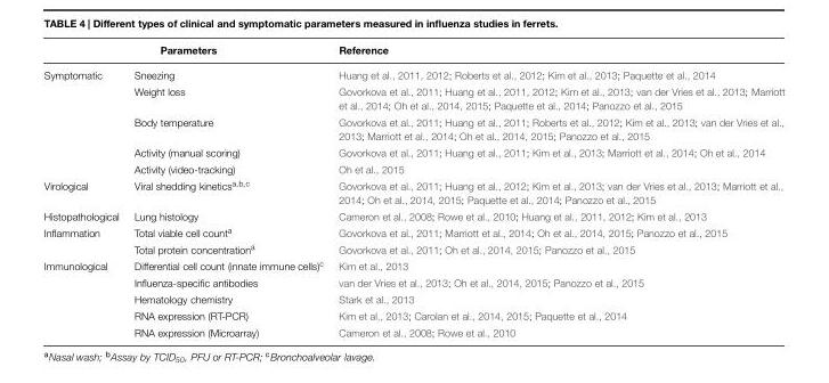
<table><thead><tr><td colspan="2">Parameters</td><td rowspan="2">Reference Huang et al., 2011, 2012; Roberts et al., 2012; Kim et al., 2013; Paquette et al., 2014</td></tr><tr><td>Symptomatic</td><td>Sneezing</td></tr></thead><tbody><tr><td></td><td>Weight loss</td><td>Govorkova et al., 2011; Huang et al., 2011, 2012; Kim et al., 2013; van der Vries et al., 2013; Marriott et al., 2014; Oh et al., 2014, 2015; Paquette et al., 2014; Panozzo et al., 2015</td></tr><tr><td></td><td>Body temperature</td><td>Govorkova et al., 2011; Huang et al., 2011; Roberts et al., 2012; Kim et al., 2013; van der Vries et al., 2013; Marriott et al., 2014; Oh et al., 2014, 2015; Panozzo et al., 2015</td></tr><tr><td></td><td>Activity (manual scoring)</td><td>Govorkova et al., 2011; Huang et al., 2011; Kim et al., 2013; Marriott et al., 2014; Oh et al., 2014</td></tr><tr><td></td><td>Activity (video-tracking)</td><td>Oh et al., 2015</td></tr><tr><td>Virological</td><td>Viral shedding kinetics<sup>a,b,c</sup></td><td>Govorkova et al., 2011; Huang et al., 2012; Kim et al., 2013; van der Vries et al., 2013; Marriott et al., 2014; Oh et al., 2014, 2015; Paquette et al., 2014; Panozzo et al., 2015</td></tr><tr><td>Histopathological</td><td>Lung histology</td><td>Cameron et al., 2008; Rowe et al., 2010; Huang et al., 2011, 2012; Kim et al., 2013</td></tr><tr><td rowspan="2">Inflammation</td><td>Total viable cell count<sup>a</sup></td><td>Govorkova et al., 2011; Marriott et al., 2014; Oh et al., 2014, 2015; Panozzo et al., 2015</td></tr><tr><td>Total protein concentration<sup>a</sup></td><td>Govorkova et al., 2011; Oh et al., 2014, 2015; Panozzo et al., 2015</td></tr><tr><td rowspan="5">Immunological</td><td>Differential cell count (innate immune cells)<sup>c</sup></td><td>Kim et al., 2013</td></tr><tr><td>Influenza-specific antibodies</td><td>van der Vries et al., 2013; Oh et al., 2014, 2015; Panozzo et al., 2015</td></tr><tr><td>Hematology chemistry</td><td>Stark et al., 2013</td></tr><tr><td>RNA expression (RT-PCR)</td><td>Kim et al., 2013; Carolan et al., 2014, 2015; Paquette et al., 2014</td></tr><tr><td>RNA expression (Microarray)</td><td>Cameron et al., 2008; Rowe et al., 2010</td></tr></tbody></table>